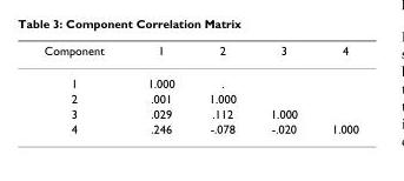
<table><thead><tr><td>Component</td><td>1</td><td>2</td><td>3</td><td>4</td></tr></thead><tbody><tr><td>1</td><td>1.000</td><td>.</td><td></td><td></td></tr><tr><td>2</td><td>.001</td><td>1.000</td><td></td><td></td></tr><tr><td>3</td><td>.029</td><td>.112</td><td>1.000</td><td></td></tr><tr><td>4</td><td>.246</td><td>-.078</td><td>-.020</td><td>1.000</td></tr></tbody></table>